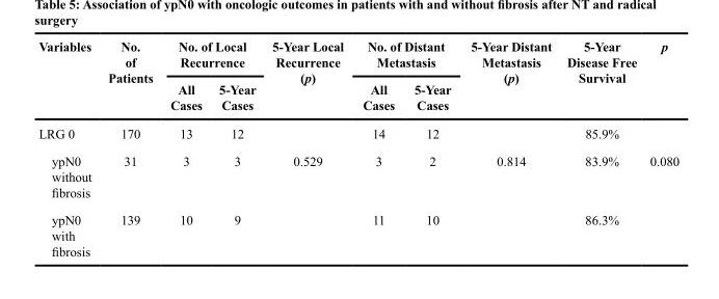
<table><thead><tr><td rowspan="2">Variables</td><td rowspan="2">No. of Patients</td><td colspan="2">No. of Local Recurrence</td><td rowspan="2">5-Year Local Recurrence ( p )</td><td colspan="2">No. of Distant Metastasis</td><td rowspan="2">5-Year Distant Metastasis ( p )</td><td rowspan="2">5-Year Disease Free Survival</td><td rowspan="2">p</td></tr><tr><td>All Cases</td><td>5-Year Cases</td><td>All Cases</td><td>5-Year Cases</td></tr></thead><tbody><tr><td>LRG 0</td><td>170</td><td>13</td><td>12</td><td></td><td>14</td><td>12</td><td></td><td>85.9%</td><td></td></tr><tr><td>ypN0 without fi brosis</td><td>31</td><td>3</td><td>3</td><td>0.529</td><td>3</td><td>2</td><td>0.814</td><td>83.9%</td><td>0.080</td></tr><tr><td>ypN0 with fi brosis</td><td>139</td><td>10</td><td>9</td><td></td><td>11</td><td>10</td><td></td><td>86.3%</td><td></td></tr></tbody></table>